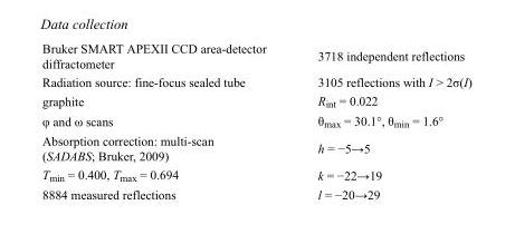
<table><tbody><tr><td>Bruker SMART APEXII CCD area-detector diffractometer</td><td>3718 independent reflections</td></tr><tr><td>Radiation source: fine-focus sealed tube</td><td>3105 reflections with I &gt; 2σ(I)</td></tr><tr><td>graphite</td><td>R<sub>int</sub> = 0.022</td></tr><tr><td>φ and ω scans</td><td>θ<sub>max</sub> = 30.1°, θ<sub>min</sub> = 1.6°</td></tr><tr><td>Absorption correction: multi-scan (SADABS; Bruker, 2009)</td><td>h = −5→5</td></tr><tr><td>T<sub>min</sub> = 0.400, T<sub>max</sub> = 0.694</td><td>k = −22→19</td></tr><tr><td>8884 measured reflections</td><td>l = −20→29</td></tr></tbody></table>